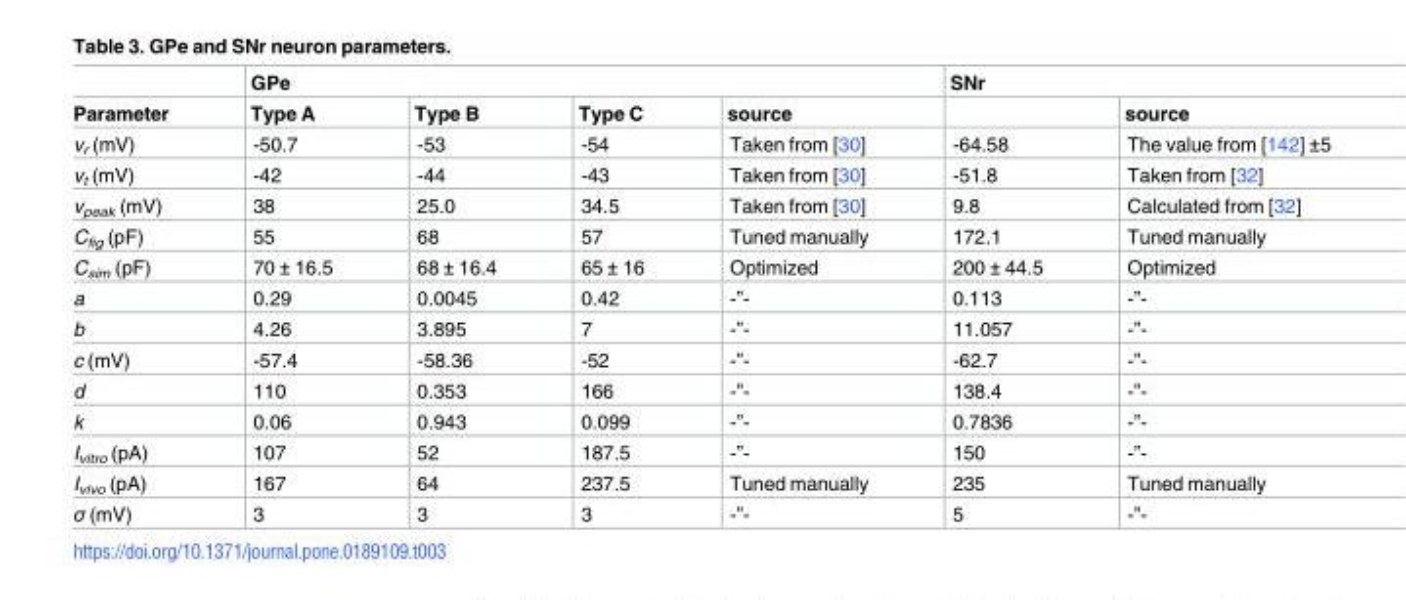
<table><thead><tr><td rowspan="2">Parameter</td><td colspan="4">GPe</td><td colspan="2">SNr</td></tr><tr><td>Type A</td><td>Type B</td><td>Type C</td><td>source</td><td></td><td>source</td></tr></thead><tbody><tr><td>v<sub>r</sub> (mV)</td><td>-50.7</td><td>-53</td><td>-54</td><td>Taken from [30]</td><td>-64.58</td><td>The value from [142] ±5</td></tr><tr><td>v<sub>t</sub> (mV)</td><td>-42</td><td>-44</td><td>-43</td><td>Taken from [30]</td><td>-51.8</td><td>Taken from [32]</td></tr><tr><td>v<sub>peak</sub> (mV)</td><td>38</td><td>25.0</td><td>34.5</td><td>Taken from [30]</td><td>9.8</td><td>Calculated from [32]</td></tr><tr><td>C<sub>fig</sub> (pF)</td><td>55</td><td>68</td><td>57</td><td>Tuned manually</td><td>172.1</td><td>Tuned manually</td></tr><tr><td>C<sub>sim</sub> (pF)</td><td>70 ± 16.5</td><td>68 ± 16.4</td><td>65 ± 16</td><td>Optimized</td><td>200 ± 44.5</td><td>Optimized</td></tr><tr><td>a</td><td>0.29</td><td>0.0045</td><td>0.42</td><td>-”-</td><td>0.113</td><td>-”-</td></tr><tr><td>b</td><td>4.26</td><td>3.895</td><td>7</td><td>-”-</td><td>11.057</td><td>-”-</td></tr><tr><td>c (mV)</td><td>-57.4</td><td>-58.36</td><td>-52</td><td>-”-</td><td>-62.7</td><td>-”-</td></tr><tr><td>d</td><td>110</td><td>0.353</td><td>166</td><td>-”-</td><td>138.4</td><td>-”-</td></tr><tr><td>k</td><td>0.06</td><td>0.943</td><td>0.099</td><td>-”-</td><td>0.7836</td><td>-”-</td></tr><tr><td>I<sub>vitro</sub> (pA)</td><td>107</td><td>52</td><td>187.5</td><td>-”-</td><td>150</td><td>-”-</td></tr><tr><td>I<sub>vivo</sub> (pA)</td><td>167</td><td>64</td><td>237.5</td><td>Tuned manually</td><td>235</td><td>Tuned manually</td></tr><tr><td>σ (mV)</td><td>3</td><td>3</td><td>3</td><td>-”-</td><td>5</td><td>-”-</td></tr></tbody></table>